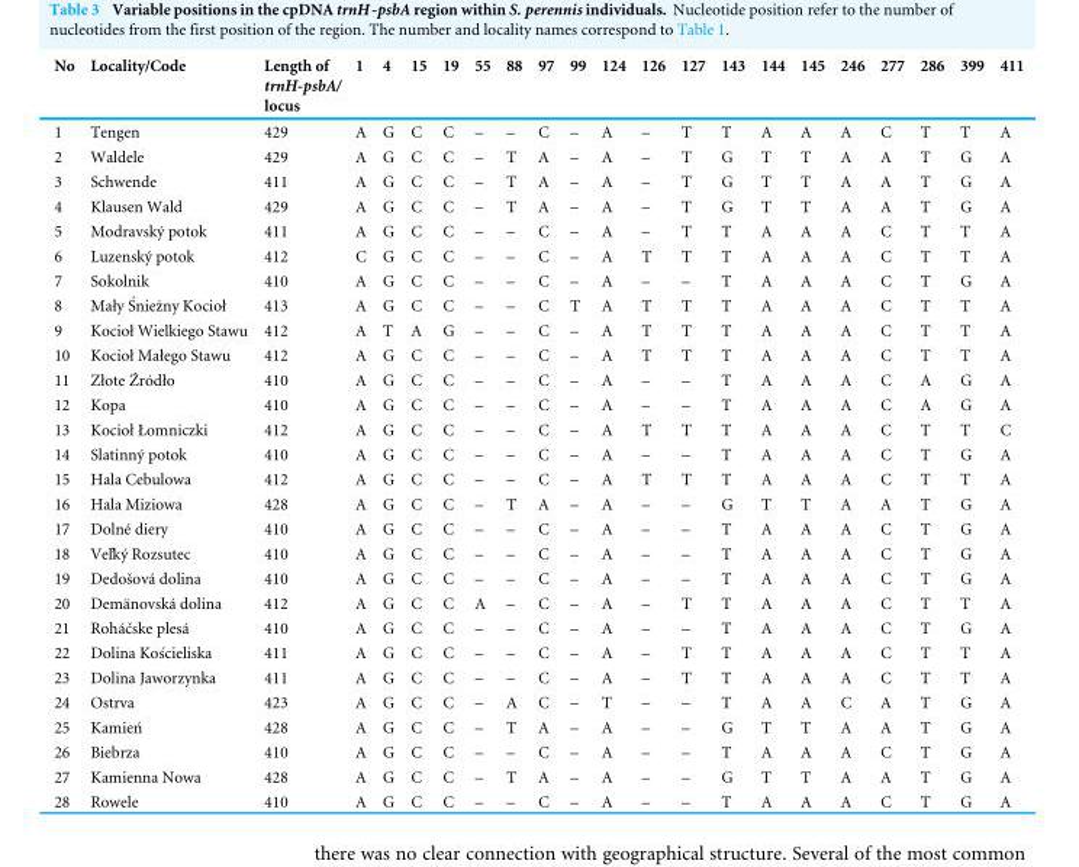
<table><thead><tr><td>No</td><td>Locality/Code</td><td>Length of trnH-psbA/ locus</td><td>1</td><td>4</td><td>15</td><td>19</td><td>55</td><td>88</td><td>97</td><td>99</td><td>124</td><td>126</td><td>127</td><td>143</td><td>144</td><td>145</td><td>246</td><td>277</td><td>286</td><td>399</td><td>411</td></tr></thead><tbody><tr><td>1</td><td>Tengen</td><td>429</td><td>A</td><td>G</td><td>C</td><td>C</td><td>–</td><td>–</td><td>C</td><td>–</td><td>A</td><td>–</td><td>T</td><td>T</td><td>A</td><td>A</td><td>A</td><td>C</td><td>T</td><td>T</td><td>A</td></tr><tr><td>2</td><td>Waldele</td><td>429</td><td>A</td><td>G</td><td>C</td><td>C</td><td>–</td><td>T</td><td>A</td><td>–</td><td>A</td><td>–</td><td>T</td><td>G</td><td>T</td><td>T</td><td>A</td><td>A</td><td>T</td><td>G</td><td>A</td></tr><tr><td>3</td><td>Schwende</td><td>411</td><td>A</td><td>G</td><td>C</td><td>C</td><td>–</td><td>T</td><td>A</td><td>–</td><td>A</td><td>–</td><td>T</td><td>G</td><td>T</td><td>T</td><td>A</td><td>A</td><td>T</td><td>G</td><td>A</td></tr><tr><td>4</td><td>Klausen Wald</td><td>429</td><td>A</td><td>G</td><td>C</td><td>C</td><td>–</td><td>T</td><td>A</td><td>–</td><td>A</td><td>–</td><td>T</td><td>G</td><td>T</td><td>T</td><td>A</td><td>A</td><td>T</td><td>G</td><td>A</td></tr><tr><td>5</td><td>Modravský potok</td><td>411</td><td>A</td><td>G</td><td>C</td><td>C</td><td>–</td><td>–</td><td>C</td><td>–</td><td>A</td><td>–</td><td>T</td><td>T</td><td>A</td><td>A</td><td>A</td><td>C</td><td>T</td><td>T</td><td>A</td></tr><tr><td>6</td><td>Luzenský potok</td><td>412</td><td>C</td><td>G</td><td>C</td><td>C</td><td>–</td><td>–</td><td>C</td><td>–</td><td>A</td><td>T</td><td>T</td><td>T</td><td>A</td><td>A</td><td>A</td><td>C</td><td>T</td><td>T</td><td>A</td></tr><tr><td>7</td><td>Sokolnik</td><td>410</td><td>A</td><td>G</td><td>C</td><td>C</td><td>–</td><td>–</td><td>C</td><td>–</td><td>A</td><td>–</td><td>–</td><td>T</td><td>A</td><td>A</td><td>A</td><td>C</td><td>T</td><td>G</td><td>A</td></tr><tr><td>8</td><td>Mały Śnieżny Kocioł</td><td>413</td><td>A</td><td>G</td><td>C</td><td>C</td><td>–</td><td>–</td><td>C</td><td>T</td><td>A</td><td>T</td><td>T</td><td>T</td><td>A</td><td>A</td><td>A</td><td>C</td><td>T</td><td>T</td><td>A</td></tr><tr><td>9</td><td>Kocioł Wielkiego Stawu</td><td>412</td><td>A</td><td>T</td><td>A</td><td>G</td><td>–</td><td>–</td><td>C</td><td>–</td><td>A</td><td>T</td><td>T</td><td>T</td><td>A</td><td>A</td><td>A</td><td>C</td><td>T</td><td>T</td><td>A</td></tr><tr><td>10</td><td>Kocioł Małego Stawu</td><td>412</td><td>A</td><td>G</td><td>C</td><td>C</td><td>–</td><td>–</td><td>C</td><td>–</td><td>A</td><td>T</td><td>T</td><td>T</td><td>A</td><td>A</td><td>A</td><td>C</td><td>T</td><td>T</td><td>A</td></tr><tr><td>11</td><td>Złote Źródło</td><td>410</td><td>A</td><td>G</td><td>C</td><td>C</td><td>–</td><td>–</td><td>C</td><td>–</td><td>A</td><td>–</td><td>–</td><td>T</td><td>A</td><td>A</td><td>A</td><td>C</td><td>A</td><td>G</td><td>A</td></tr><tr><td>12</td><td>Kopa</td><td>410</td><td>A</td><td>G</td><td>C</td><td>C</td><td>–</td><td>–</td><td>C</td><td>–</td><td>A</td><td>–</td><td>–</td><td>T</td><td>A</td><td>A</td><td>A</td><td>C</td><td>A</td><td>G</td><td>A</td></tr><tr><td>13</td><td>Kocioł Łomniczki</td><td>412</td><td>A</td><td>G</td><td>C</td><td>C</td><td>–</td><td>–</td><td>C</td><td>–</td><td>A</td><td>T</td><td>T</td><td>T</td><td>A</td><td>A</td><td>A</td><td>C</td><td>T</td><td>T</td><td>C</td></tr><tr><td>14</td><td>Slatinný potok</td><td>410</td><td>A</td><td>G</td><td>C</td><td>C</td><td>–</td><td>–</td><td>C</td><td>–</td><td>A</td><td>–</td><td>–</td><td>T</td><td>A</td><td>A</td><td>A</td><td>C</td><td>T</td><td>G</td><td>A</td></tr><tr><td>15</td><td>Hala Cebulowa</td><td>412</td><td>A</td><td>G</td><td>C</td><td>C</td><td>–</td><td>–</td><td>C</td><td>–</td><td>A</td><td>T</td><td>T</td><td>T</td><td>A</td><td>A</td><td>A</td><td>C</td><td>T</td><td>T</td><td>A</td></tr><tr><td>16</td><td>Hala Miziowa</td><td>428</td><td>A</td><td>G</td><td>C</td><td>C</td><td>–</td><td>T</td><td>A</td><td>–</td><td>A</td><td>–</td><td>–</td><td>G</td><td>T</td><td>T</td><td>A</td><td>A</td><td>T</td><td>G</td><td>A</td></tr><tr><td>17</td><td>Dolné diery</td><td>410</td><td>A</td><td>G</td><td>C</td><td>C</td><td>–</td><td>–</td><td>C</td><td>–</td><td>A</td><td>–</td><td>–</td><td>T</td><td>A</td><td>A</td><td>A</td><td>C</td><td>T</td><td>G</td><td>A</td></tr><tr><td>18</td><td>Veľký Rozsutec</td><td>410</td><td>A</td><td>G</td><td>C</td><td>C</td><td>–</td><td>–</td><td>C</td><td>–</td><td>A</td><td>–</td><td>–</td><td>T</td><td>A</td><td>A</td><td>A</td><td>C</td><td>T</td><td>G</td><td>A</td></tr><tr><td>19</td><td>Dedošová dolina</td><td>410</td><td>A</td><td>G</td><td>C</td><td>C</td><td>–</td><td>–</td><td>C</td><td>–</td><td>A</td><td>–</td><td>–</td><td>T</td><td>A</td><td>A</td><td>A</td><td>C</td><td>T</td><td>G</td><td>A</td></tr><tr><td>20</td><td>Demänovská dolina</td><td>412</td><td>A</td><td>G</td><td>C</td><td>C</td><td>A</td><td>–</td><td>C</td><td>–</td><td>A</td><td>–</td><td>T</td><td>T</td><td>A</td><td>A</td><td>A</td><td>C</td><td>T</td><td>T</td><td>A</td></tr><tr><td>21</td><td>Roháčske plesá</td><td>410</td><td>A</td><td>G</td><td>C</td><td>C</td><td>–</td><td>–</td><td>C</td><td>–</td><td>A</td><td>–</td><td>–</td><td>T</td><td>A</td><td>A</td><td>A</td><td>C</td><td>T</td><td>G</td><td>A</td></tr><tr><td>22</td><td>Dolina Kościeliska</td><td>411</td><td>A</td><td>G</td><td>C</td><td>C</td><td>–</td><td>–</td><td>C</td><td>–</td><td>A</td><td>–</td><td>T</td><td>T</td><td>A</td><td>A</td><td>A</td><td>C</td><td>T</td><td>T</td><td>A</td></tr><tr><td>23</td><td>Dolina Jaworzynka</td><td>411</td><td>A</td><td>G</td><td>C</td><td>C</td><td>–</td><td>–</td><td>C</td><td>–</td><td>A</td><td>–</td><td>T</td><td>T</td><td>A</td><td>A</td><td>A</td><td>C</td><td>T</td><td>T</td><td>A</td></tr><tr><td>24</td><td>Ostrva</td><td>423</td><td>A</td><td>G</td><td>C</td><td>C</td><td>–</td><td>A</td><td>C</td><td>–</td><td>T</td><td>–</td><td>–</td><td>T</td><td>A</td><td>A</td><td>C</td><td>A</td><td>T</td><td>G</td><td>A</td></tr><tr><td>25</td><td>Kamień</td><td>428</td><td>A</td><td>G</td><td>C</td><td>C</td><td>–</td><td>T</td><td>A</td><td>–</td><td>A</td><td>–</td><td>–</td><td>G</td><td>T</td><td>T</td><td>A</td><td>A</td><td>T</td><td>G</td><td>A</td></tr><tr><td>26</td><td>Biebrza</td><td>410</td><td>A</td><td>G</td><td>C</td><td>C</td><td>–</td><td>–</td><td>C</td><td>–</td><td>A</td><td>–</td><td>–</td><td>T</td><td>A</td><td>A</td><td>A</td><td>C</td><td>T</td><td>G</td><td>A</td></tr><tr><td>27</td><td>Kamienna Nowa</td><td>428</td><td>A</td><td>G</td><td>C</td><td>C</td><td>–</td><td>T</td><td>A</td><td>–</td><td>A</td><td>–</td><td>–</td><td>G</td><td>T</td><td>T</td><td>A</td><td>A</td><td>T</td><td>G</td><td>A</td></tr><tr><td>28</td><td>Rowele</td><td>410</td><td>A</td><td>G</td><td>C</td><td>C</td><td>–</td><td>–</td><td>C</td><td>–</td><td>A</td><td>–</td><td>–</td><td>T</td><td>A</td><td>A</td><td>A</td><td>C</td><td>T</td><td>G</td><td>A</td></tr></tbody></table>